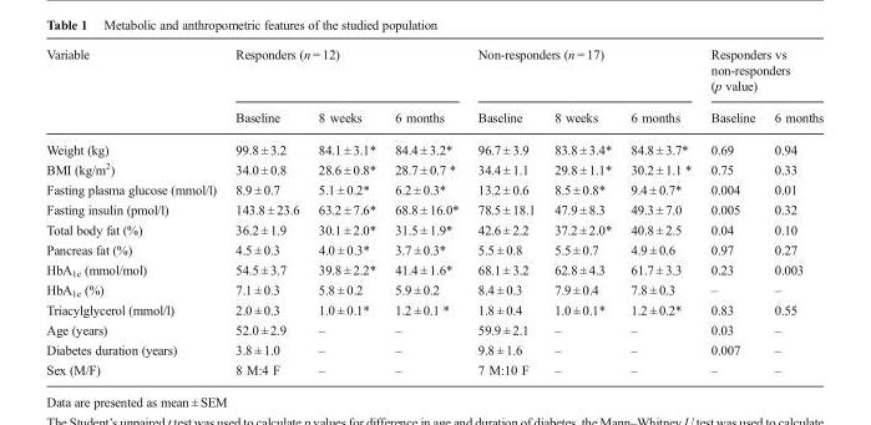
<table><thead><tr><td rowspan="2">Variable</td><td colspan="3">Responders (n = 12)</td><td colspan="3">Non-responders (n = 17)</td><td colspan="2">Responders vs non-responders (p value)</td></tr><tr><td>Baseline</td><td>8 weeks</td><td>6 months</td><td>Baseline</td><td>8 weeks</td><td>6 months</td><td>Baseline</td><td>6 months</td></tr></thead><tbody><tr><td>Weight (kg)</td><td>99.8 ± 3.2</td><td>84.1 ± 3.1*</td><td>84.4 ± 3.2*</td><td>96.7 ± 3.9</td><td>83.8 ± 3.4*</td><td>84.8 ± 3.7*</td><td>0.69</td><td>0.94</td></tr><tr><td>BMI (kg/m<sup>2</sup>)</td><td>34.0 ± 0.8</td><td>28.6 ± 0.8*</td><td>28.7 ± 0.7 *</td><td>34.4 ± 1.1</td><td>29.8 ± 1.1*</td><td>30.2 ± 1.1 *</td><td>0.75</td><td>0.33</td></tr><tr><td>Fasting plasma glucose (mmol/l)</td><td>8.9 ± 0.7</td><td>5.1 ± 0.2*</td><td>6.2 ± 0.3*</td><td>13.2 ± 0.6</td><td>8.5 ± 0.8*</td><td>9.4 ± 0.7*</td><td>0.004</td><td>0.01</td></tr><tr><td>Fasting insulin (pmol/l)</td><td>143.8 ± 23.6</td><td>63.2 ± 7.6*</td><td>68.8 ± 16.0*</td><td>78.5 ± 18.1</td><td>47.9 ± 8.3</td><td>49.3 ± 7.0</td><td>0.005</td><td>0.32</td></tr><tr><td>Total body fat (%)</td><td>36.2 ± 1.9</td><td>30.1 ± 2.0*</td><td>31.5 ± 1.9*</td><td>42.6 ± 2.2</td><td>37.2 ± 2.0*</td><td>40.8 ± 2.5</td><td>0.04</td><td>0.10</td></tr><tr><td>Pancreas fat (%)</td><td>4.5 ± 0.3</td><td>4.0 ± 0.3*</td><td>3.7 ± 0.3*</td><td>5.5 ± 0.8</td><td>5.5 ± 0.7</td><td>4.9 ± 0.6</td><td>0.97</td><td>0.27</td></tr><tr><td>HbA<sub>1c</sub> (mmol/mol)</td><td>54.5 ± 3.7</td><td>39.8 ± 2.2*</td><td>41.4 ± 1.6*</td><td>68.1 ± 3.2</td><td>62.8 ± 4.3</td><td>61.7 ± 3.3</td><td>0.23</td><td>0.003</td></tr><tr><td>HbA<sub>1c</sub> (%)</td><td>7.1 ± 0.3</td><td>5.8 ± 0.2</td><td>5.9 ± 0.2</td><td>8.4 ± 0.3</td><td>7.9 ± 0.4</td><td>7.8 ± 0.3</td><td>–</td><td>–</td></tr><tr><td>Triacylglycerol (mmol/l)</td><td>2.0 ± 0.3</td><td>1.0 ± 0.1*</td><td>1.2 ± 0.1 *</td><td>1.8 ± 0.4</td><td>1.0 ± 0.1*</td><td>1.2 ± 0.2*</td><td>0.83</td><td>0.55</td></tr><tr><td>Age (years)</td><td>52.0 ± 2.9</td><td>–</td><td>–</td><td>59.9 ± 2.1</td><td>–</td><td>–</td><td>0.03</td><td>–</td></tr><tr><td>Diabetes duration (years)</td><td>3.8 ± 1.0</td><td>–</td><td>–</td><td>9.8 ± 1.6</td><td>–</td><td>–</td><td>0.007</td><td>–</td></tr><tr><td>Sex (M/F)</td><td>8 M:4 F</td><td>–</td><td>–</td><td>7 M:10 F</td><td>–</td><td>–</td><td>–</td><td>–</td></tr></tbody></table>